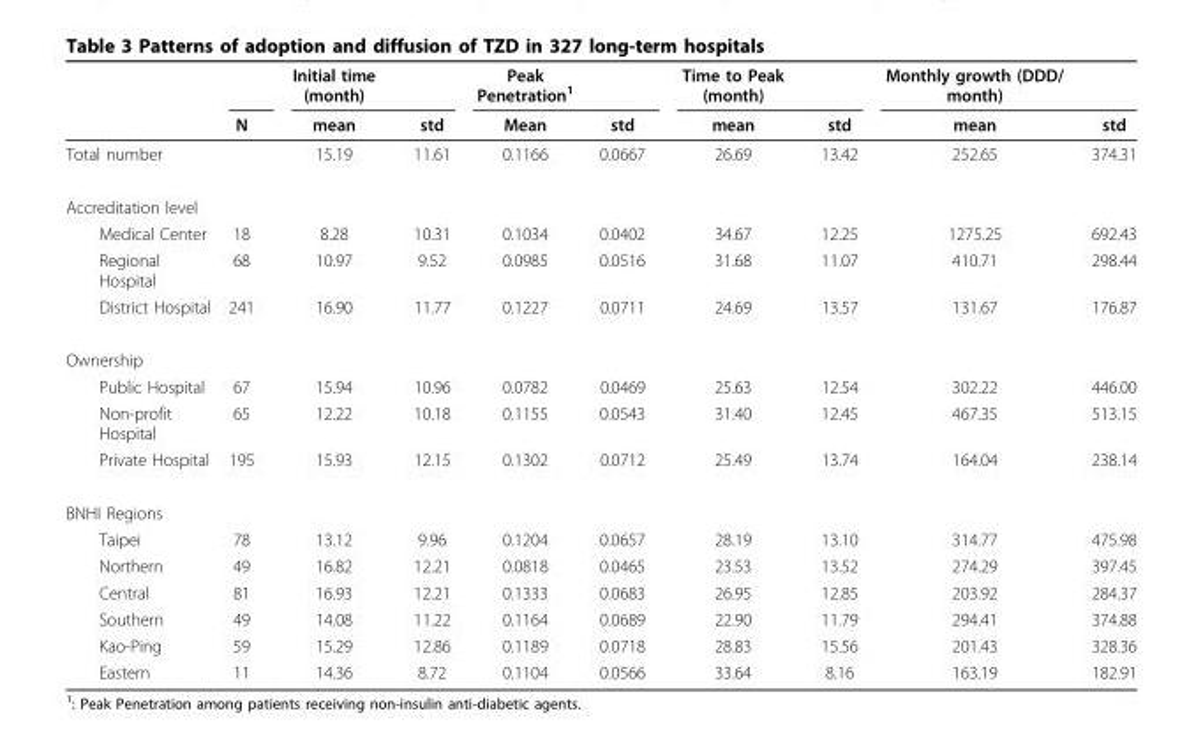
<table><thead><tr><td rowspan="2"></td><td rowspan="2">N</td><td rowspan="2">Initial time (month) mean</td><td rowspan="2">std</td><td rowspan="2">Peak Penetration1 Mean</td><td rowspan="2">std</td><td rowspan="2">Time to Peak (month) mean</td><td rowspan="2">std</td><td rowspan="2">Monthly growth (DDD/ month) mean</td><td rowspan="2">std</td></tr><tr></tr></thead><tbody><tr><td>Total number</td><td></td><td>15.19</td><td>11.61</td><td>0.1166</td><td>0.0667</td><td>26.69</td><td>13.42</td><td>252.65</td><td>374.31</td></tr><tr><td colspan="10">Accreditation level</td></tr><tr><td>Medical Center</td><td>18</td><td>8.28</td><td>10.31</td><td>0.1034</td><td>0.0402</td><td>34.67</td><td>12.25</td><td>1275.25</td><td>692.43</td></tr><tr><td>Regional Hospital</td><td>68</td><td>10.97</td><td>9.52</td><td>0.0985</td><td>0.0516</td><td>31.68</td><td>11.07</td><td>410.71</td><td>298.44</td></tr><tr><td>District Hospital</td><td>241</td><td>16.90</td><td>11.77</td><td>0.1227</td><td>0.0711</td><td>24.69</td><td>13.57</td><td>131.67</td><td>176.87</td></tr><tr><td colspan="10">Ownership</td></tr><tr><td>Public Hospital</td><td>67</td><td>15.94</td><td>10.96</td><td>0.0782</td><td>0.0469</td><td>25.63</td><td>12.54</td><td>302.22</td><td>446.00</td></tr><tr><td>Non-profit Hospital</td><td>65</td><td>12.22</td><td>10.18</td><td>0.1155</td><td>0.0543</td><td>31.40</td><td>12.45</td><td>467.35</td><td>513.15</td></tr><tr><td>Private Hospital</td><td>195</td><td>15.93</td><td>12.15</td><td>0.1302</td><td>0.0712</td><td>25.49</td><td>13.74</td><td>164.04</td><td>238.14</td></tr><tr><td colspan="10">BNHI Regions</td></tr><tr><td>Taipei</td><td>78</td><td>13.12</td><td>9.96</td><td>0.1204</td><td>0.0657</td><td>28.19</td><td>13.10</td><td>314.77</td><td>475.98</td></tr><tr><td>Northern</td><td>49</td><td>16.82</td><td>12.21</td><td>0.0818</td><td>0.0465</td><td>23.53</td><td>13.52</td><td>274.29</td><td>397.45</td></tr><tr><td>Central</td><td>81</td><td>16.93</td><td>12.21</td><td>0.1333</td><td>0.0683</td><td>26.95</td><td>12.85</td><td>203.92</td><td>284.37</td></tr><tr><td>Southern</td><td>49</td><td>14.08</td><td>11.22</td><td>0.1164</td><td>0.0689</td><td>22.90</td><td>11.79</td><td>294.41</td><td>374.88</td></tr><tr><td>Kao-Ping</td><td>59</td><td>15.29</td><td>12.86</td><td>0.1189</td><td>0.0718</td><td>28.83</td><td>15.56</td><td>201.43</td><td>328.36</td></tr><tr><td>Eastern</td><td>11</td><td>14.36</td><td>8.72</td><td>0.1104</td><td>0.0566</td><td>33.64</td><td>8.16</td><td>163.19</td><td>182.91</td></tr></tbody></table>